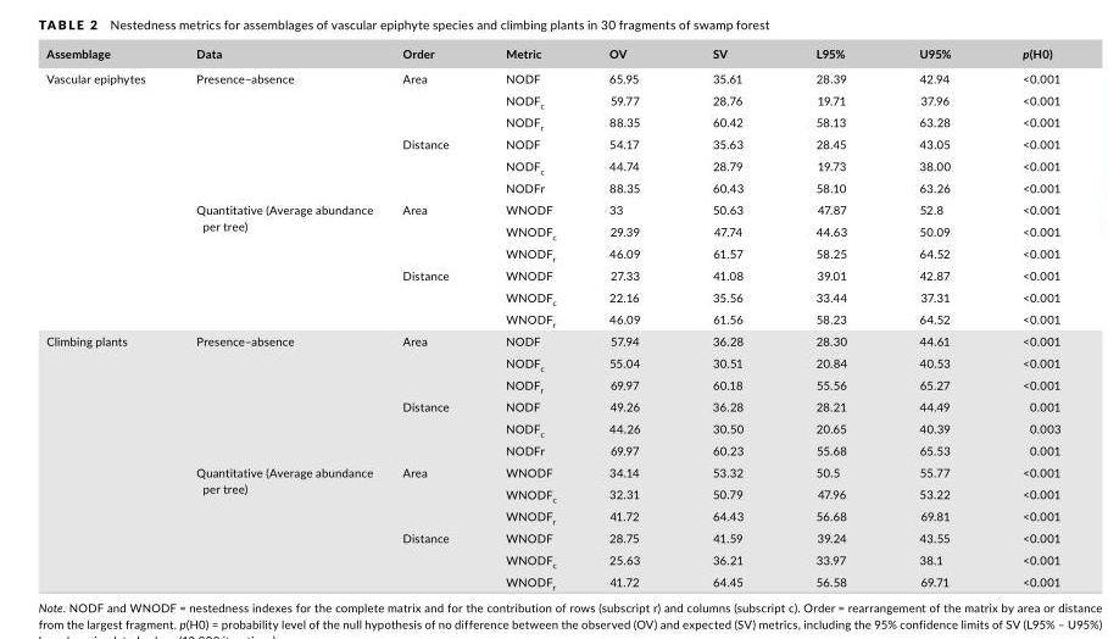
<table><thead><tr><td>Assemblage</td><td>Data</td><td>Order</td><td>Metric</td><td>OV</td><td>SV</td><td>L95%</td><td>U95%</td><td>p(H0)</td></tr></thead><tbody><tr><td rowspan="12">Vascular epiphytes</td><td rowspan="6">Presence–absence</td><td rowspan="3">Area</td><td>NODF</td><td>65.95</td><td>35.61</td><td>28.39</td><td>42.94</td><td>&lt;0.001</td></tr><tr><td>NODF<sub>c</sub></td><td>59.77</td><td>28.76</td><td>19.71</td><td>37.96</td><td>&lt;0.001</td></tr><tr><td>NODF<sub>r</sub></td><td>88.35</td><td>60.42</td><td>58.13</td><td>63.28</td><td>&lt;0.001</td></tr><tr><td rowspan="3">Distance</td><td>NODF</td><td>54.17</td><td>35.63</td><td>28.45</td><td>43.05</td><td>&lt;0.001</td></tr><tr><td>NODF<sub>c</sub></td><td>44.74</td><td>28.79</td><td>19.73</td><td>38.00</td><td>&lt;0.001</td></tr><tr><td>NODFr</td><td>88.35</td><td>60.43</td><td>58.10</td><td>63.26</td><td>&lt;0.001</td></tr><tr><td rowspan="6">Quantitative (Average abundance per tree)</td><td rowspan="3">Area</td><td>WNODF</td><td>33</td><td>50.63</td><td>47.87</td><td>52.8</td><td>&lt;0.001</td></tr><tr><td>WNODF<sub>c</sub></td><td>29.39</td><td>47.74</td><td>44.63</td><td>50.09</td><td>&lt;0.001</td></tr><tr><td>WNODF<sub>r</sub></td><td>46.09</td><td>61.57</td><td>58.25</td><td>64.52</td><td>&lt;0.001</td></tr><tr><td rowspan="3">Distance</td><td>WNODF</td><td>27.33</td><td>41.08</td><td>39.01</td><td>42.87</td><td>&lt;0.001</td></tr><tr><td>WNODF<sub>c</sub></td><td>22.16</td><td>35.56</td><td>33.44</td><td>37.31</td><td>&lt;0.001</td></tr><tr><td>WNODF<sub>r</sub></td><td>46.09</td><td>61.56</td><td>58.23</td><td>64.52</td><td>&lt;0.001</td></tr><tr><td rowspan="12">Climbing plants</td><td rowspan="6">Presence–absence</td><td rowspan="3">Area</td><td>NODF</td><td>57.94</td><td>36.28</td><td>28.30</td><td>44.61</td><td>&lt;0.001</td></tr><tr><td>NODF<sub>c</sub></td><td>55.04</td><td>30.51</td><td>20.84</td><td>40.53</td><td>&lt;0.001</td></tr><tr><td>NODF<sub>r</sub></td><td>69.97</td><td>60.18</td><td>55.56</td><td>65.27</td><td>&lt;0.001</td></tr><tr><td rowspan="3">Distance</td><td>NODF</td><td>49.26</td><td>36.28</td><td>28.21</td><td>44.49</td><td>0.001</td></tr><tr><td>NODF<sub>c</sub></td><td>44.26</td><td>30.50</td><td>20.65</td><td>40.39</td><td>0.003</td></tr><tr><td>NODFr</td><td>69.97</td><td>60.23</td><td>55.68</td><td>65.53</td><td>0.001</td></tr><tr><td rowspan="6">Quantitative (Average abundance per tree)</td><td rowspan="3">Area</td><td>WNODF</td><td>34.14</td><td>53.32</td><td>50.5</td><td>55.77</td><td>&lt;0.001</td></tr><tr><td>WNODF<sub>c</sub></td><td>32.31</td><td>50.79</td><td>47.96</td><td>53.22</td><td>&lt;0.001</td></tr><tr><td>WNODF<sub>r</sub></td><td>41.72</td><td>64.43</td><td>56.68</td><td>69.81</td><td>&lt;0.001</td></tr><tr><td rowspan="3">Distance</td><td>WNODF</td><td>28.75</td><td>41.59</td><td>39.24</td><td>43.55</td><td>&lt;0.001</td></tr><tr><td>WNODF<sub>c</sub></td><td>25.63</td><td>36.21</td><td>33.97</td><td>38.1</td><td>&lt;0.001</td></tr><tr><td>WNODF<sub>r</sub></td><td>41.72</td><td>64.45</td><td>56.58</td><td>69.71</td><td>&lt;0.001</td></tr></tbody></table>